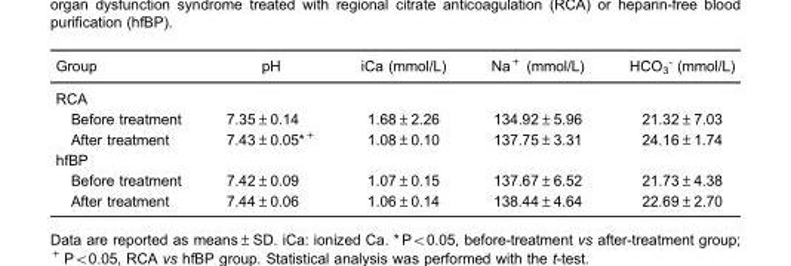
<table><thead><tr><td>Group</td><td>pH</td><td>iCa (mmol/L)</td><td>Na+ (mmol/L)</td><td>HCO<sub>3</sub> <sup>-</sup> (mmol/L)</td></tr></thead><tbody><tr><td colspan="5">RCA</td></tr><tr><td>Before treatment</td><td>7.35±0.14</td><td>1.68±2.26</td><td>134.92±5.96</td><td>21.32±7.03</td></tr><tr><td>After treatment</td><td>7.43±0.05*+</td><td>1.08±0.10</td><td>137.75±3.31</td><td>24.16±1.74</td></tr><tr><td colspan="5">hfBP</td></tr><tr><td>Before treatment</td><td>7.42±0.09</td><td>1.07±0.15</td><td>137.67±6.52</td><td>21.73±4.38</td></tr><tr><td>After treatment</td><td>7.44±0.06</td><td>1.06±0.14</td><td>138.44±4.64</td><td>22.69±2.70</td></tr></tbody></table>